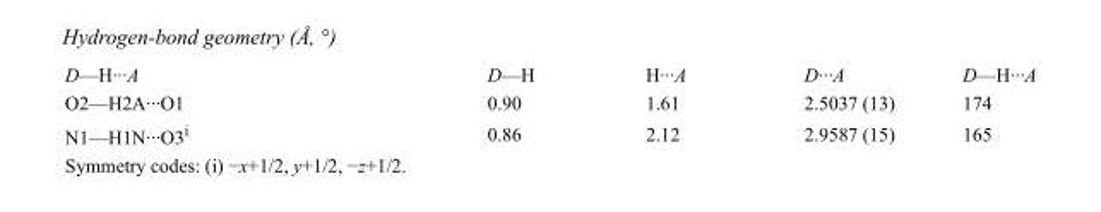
<table><tbody><tr><td>D—H···A</td><td>D—H</td><td>H···A</td><td>D···A</td><td>D—H···A</td></tr><tr><td>O2—H2A···O1</td><td>0.90</td><td>1.61</td><td>2.5037 (13)</td><td>174</td></tr><tr><td>N1—H1N···O3<sup>i</sup></td><td>0.86</td><td>2.12</td><td>2.9587 (15)</td><td>165</td></tr></tbody></table>